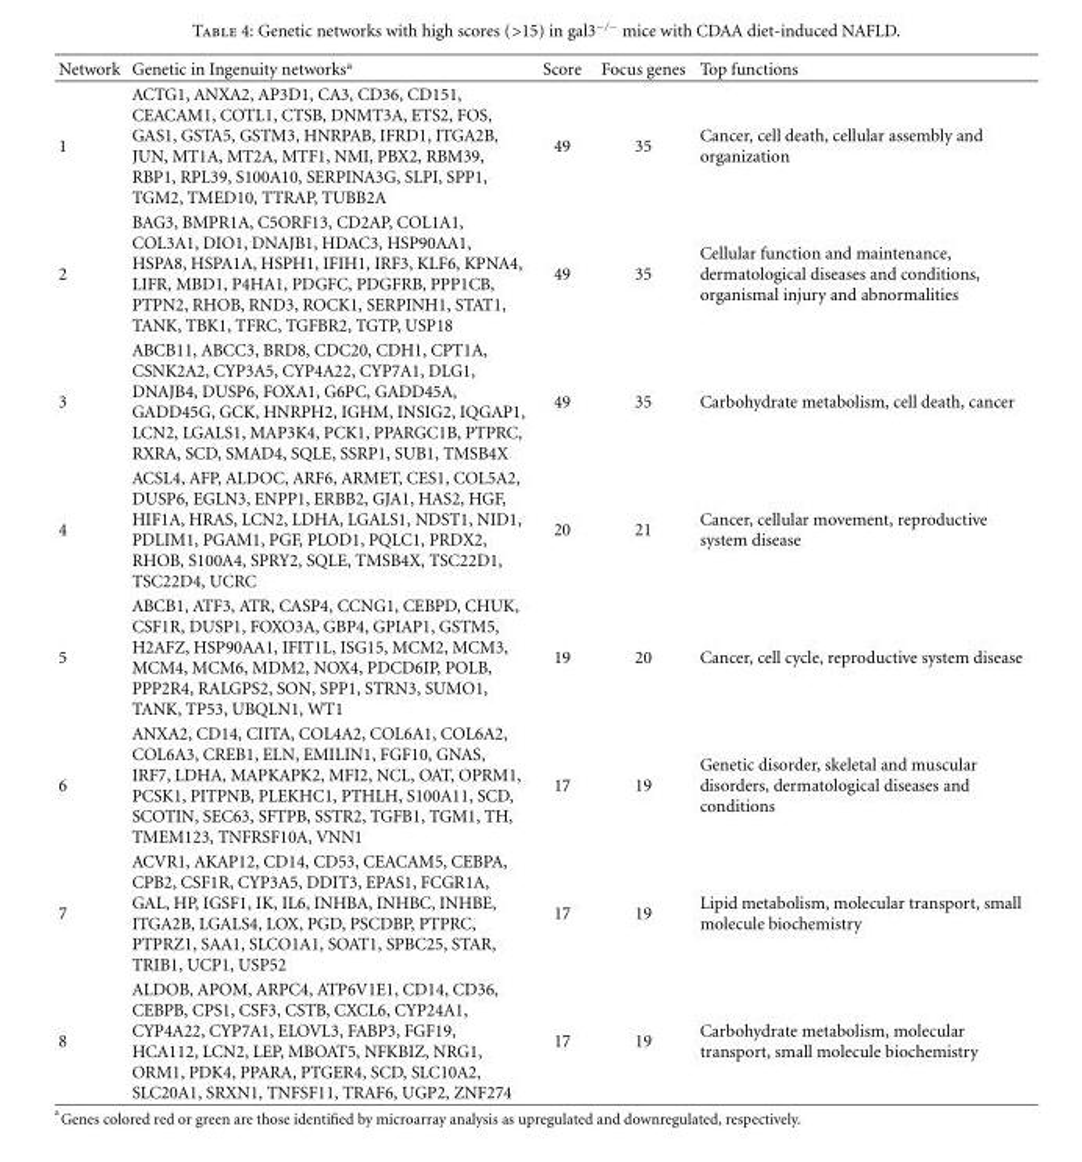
<table><thead><tr><td>Network</td><td>Genetic in Ingenuity networks<sup>a</sup></td><td>Score</td><td>Focus genes</td><td>Top functions</td></tr></thead><tbody><tr><td>1</td><td>ACTG1, ANXA2, AP3D1, CA3, CD36, CD151, CEACAM1, COTL1, CTSB, DNMT3A, ETS2, FOS, GAS1, GSTA5, GSTM3, HNRPAB, IFRD1, ITGA2B, JUN, MT1A, MT2A, MTF1, NMI, PBX2, RBM39, RBP1, RPL39, S100A10, SERPINA3G, SLPI, SPP1, TGM2, TMED10, TTRAP, TUBB2A</td><td>49</td><td>35</td><td>Cancer, cell death, cellular assembly and organization</td></tr><tr><td>2</td><td>BAG3, BMPR1A, C5ORF13, CD2AP, COL1A1, COL3A1, DIO1, DNAJB1, HDAC3, HSP90AA1, HSPA8, HSPA1A, HSPH1, IFIH1, IRF3, KLF6, KPNA4, LIFR, MBD1, P4HA1, PDGFC, PDGFRB, PPP1CB, PTPN2, RHOB, RND3, ROCK1, SERPINH1, STAT1, TANK, TBK1, TFRC, TGFBR2, TGTP, USP18</td><td>49</td><td>35</td><td>Cellular function and maintenance, dermatological diseases and conditions, organismal injury and abnormalities</td></tr><tr><td>3</td><td>ABCB11, ABCC3, BRD8, CDC20, CDH1, CPT1A, CSNK2A2, CYP3A5, CYP4A22, CYP7A1, DLG1, DNAJB4, DUSP6, FOXA1, G6PC, GADD45A, GADD45G, GCK, HNRPH2, IGHM, INSIG2, IQGAP1, LCN2, LGALS1, MAP3K4, PCK1, PPARGC1B, PTPRC, RXRA, SCD, SMAD4, SQLE, SSRP1, SUB1, TMSB4X</td><td>49</td><td>35</td><td>Carbohydrate metabolism, cell death, cancer</td></tr><tr><td>4</td><td>ACSL4, AFP, ALDOC, ARF6, ARMET, CES1, COL5A2, DUSP6, EGLN3, ENPP1, ERBB2, GJA1, HAS2, HGF, HIF1A, HRAS, LCN2, LDHA, LGALS1, NDST1, NID1, PDLIM1, PGAM1, PGF, PLOD1, PQLC1, PRDX2, RHOB, S100A4, SPRY2, SQLE, TMSB4X, TSC22D1, TSC22D4, UCRC</td><td>20</td><td>21</td><td>Cancer, cellular movement, reproductive system disease</td></tr><tr><td>5</td><td>ABCB1, ATF3, ATR, CASP4, CCNG1, CEBPD, CHUK, CSF1R, DUSP1, FOXO3A, GBP4, GPIAP1, GSTM5, H2AFZ, HSP90AA1, IFIT1L, ISG15, MCM2, MCM3, MCM4, MCM6, MDM2, NOX4, PDCD6IP, POLB, PPP2R4, RALGPS2, SON, SPP1, STRN3, SUMO1, TANK, TP53, UBQLN1, WT1</td><td>19</td><td>20</td><td>Cancer, cell cycle, reproductive system disease</td></tr><tr><td>6</td><td>ANXA2, CD14, CIITA, COL4A2, COL6A1, COL6A2, COL6A3, CREB1, ELN, EMILIN1, FGF10, GNAS, IRF7, LDHA, MAPKAPK2, MFI2, NCL, OAT, OPRM1, PCSK1, PITPNB, PLEKHC1, PTHLH, S100A11, SCD, SCOTIN, SEC63, SFTPB, SSTR2, TGFB1, TGM1, TH, TMEM123, TNFRSF10A, VNN1</td><td>17</td><td>19</td><td>Genetic disorder, skeletal and muscular disorders, dermatological diseases and conditions</td></tr><tr><td>7</td><td>ACVR1, AKAP12, CD14, CD53, CEACAM5, CEBPA, CPB2, CSF1R, CYP3A5, DDIT3, EPAS1, FCGR1A, GAL, HP, IGSF1, IK, IL6, INHBA, INHBC, INHBE, ITGA2B, LGALS4, LOX, PGD, PSCDBP, PTPRC, PTPRZ1, SAA1, SLCO1A1, SOAT1, SPBC25, STAR, TRIB1, UCP1, USP52</td><td>17</td><td>19</td><td>Lipid metabolism, molecular transport, small molecule biochemistry</td></tr><tr><td>8</td><td>ALDOB, APOM, ARPC4, ATP6V1E1, CD14, CD36, CEBPB, CPS1, CSF3, CSTB, CXCL6, CYP24A1, CYP4A22, CYP7A1, ELOVL3, FABP3, FGF19, HCA112, LCN2, LEP, MBOAT5, NFKBIZ, NRG1, ORM1, PDK4, PPARA, PTGER4, SCD, SLC10A2, SLC20A1, SRXN1, TNFSF11, TRAF6, UGP2, ZNF274</td><td>17</td><td>19</td><td>Carbohydrate metabolism, molecular transport, small molecule biochemistry</td></tr></tbody></table>